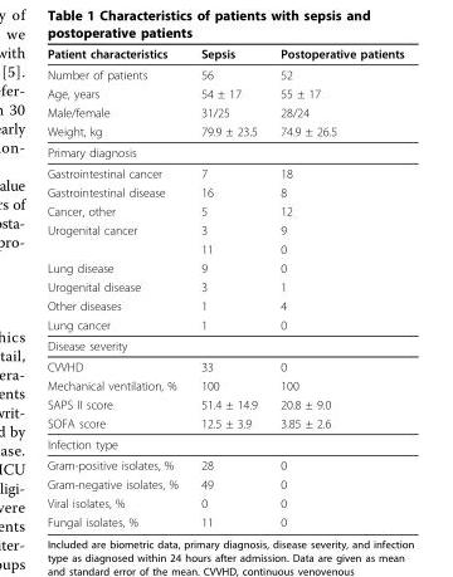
<table><thead><tr><td>Patient characteristics</td><td>Sepsis</td><td>Postoperative patients</td></tr></thead><tbody><tr><td>Number of patients</td><td>56</td><td>52</td></tr><tr><td>Age, years</td><td>54 ± 17</td><td>55 ± 17</td></tr><tr><td>Male/female</td><td>31/25</td><td>28/24</td></tr><tr><td>Weight, kg</td><td>79.9 ± 23.5</td><td>74.9 ± 26.5</td></tr><tr><td colspan="3">Primary diagnosis</td></tr><tr><td>Gastrointestinal cancer</td><td>7</td><td>18</td></tr><tr><td>Gastrointestinal disease</td><td>16</td><td>8</td></tr><tr><td>Cancer, other</td><td>5</td><td>12</td></tr><tr><td rowspan="2">Urogenital cancer</td><td>3</td><td>9</td></tr><tr><td>11</td><td>0</td></tr><tr><td>Lung disease</td><td>9</td><td>0</td></tr><tr><td>Urogenital disease</td><td>3</td><td>1</td></tr><tr><td>Other diseases</td><td>1</td><td>4</td></tr><tr><td>Lung cancer</td><td>1</td><td>0</td></tr><tr><td colspan="3">Disease severity</td></tr><tr><td>CVVHD</td><td>33</td><td>0</td></tr><tr><td>Mechanical ventilation, %</td><td>100</td><td>100</td></tr><tr><td>SAPS II score</td><td>51.4 ± 14.9</td><td>20.8 ± 9.0</td></tr><tr><td>SOFA score</td><td>12.5 ± 3.9</td><td>3.85 ± 2.6</td></tr><tr><td colspan="3">Infection type</td></tr><tr><td>Gram-positive isolates, %</td><td>28</td><td>0</td></tr><tr><td>Gram-negative isolates, %</td><td>49</td><td>0</td></tr><tr><td>Viral isolates, %</td><td>0</td><td>0</td></tr><tr><td>Fungal isolates, %</td><td>11</td><td>0</td></tr></tbody></table>